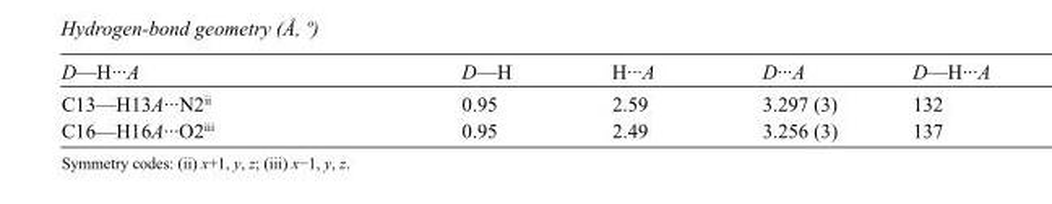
<table><tbody><tr><td>D—H···A</td><td>D—H</td><td>H···A</td><td>D···A</td><td>D—H···A</td></tr><tr><td>C13—H13A···N2<sup>ii</sup></td><td>0.95</td><td>2.59</td><td>3.297 (3)</td><td>132</td></tr><tr><td>C16—H16A···O2<sup>iii</sup></td><td>0.95</td><td>2.49</td><td>3.256 (3)</td><td>137</td></tr></tbody></table>